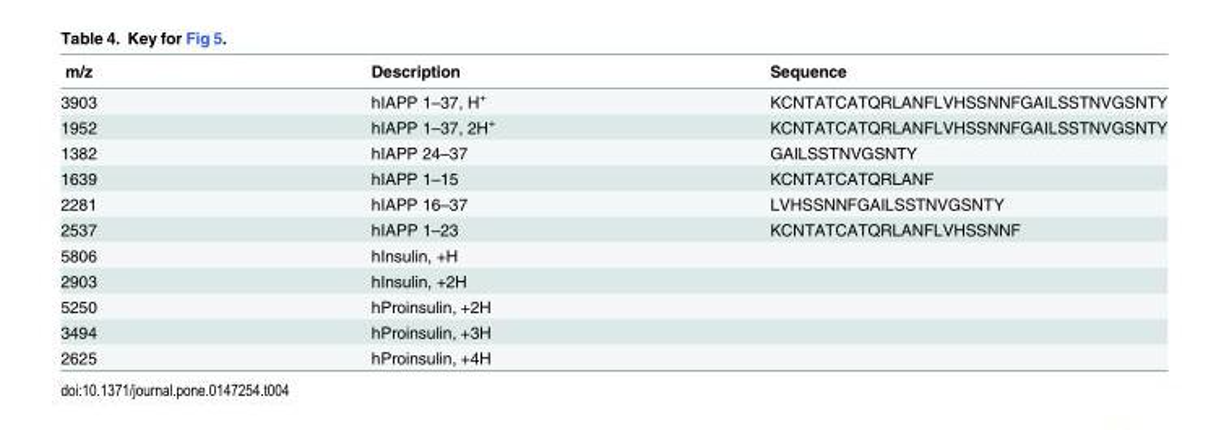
<table><thead><tr><td>m/z</td><td>Description</td><td>Sequence</td></tr></thead><tbody><tr><td>3903</td><td>hIAPP 1–37, H<sup>+</sup></td><td>KCNTATCATQRLANFLVHSSNNFGAILSSTNVGSNTY</td></tr><tr><td>1952</td><td>hIAPP 1–37, 2H<sup>+</sup></td><td>KCNTATCATQRLANFLVHSSNNFGAILSSTNVGSNTY</td></tr><tr><td>1382</td><td>hIAPP 24–37</td><td>GAILSSTNVGSNTY</td></tr><tr><td>1639</td><td>hIAPP 1–15</td><td>KCNTATCATQRLANF</td></tr><tr><td>2281</td><td>hIAPP 16–37</td><td>LVHSSNNFGAILSSTNVGSNTY</td></tr><tr><td>2537</td><td>hIAPP 1–23</td><td>KCNTATCATQRLANFLVHSSNNF</td></tr><tr><td>5806</td><td colspan="2">hInsulin, +H</td></tr><tr><td>2903</td><td colspan="2">hInsulin, +2H</td></tr><tr><td>5250</td><td colspan="2">hProinsulin, +2H</td></tr><tr><td>3494</td><td colspan="2">hProinsulin, +3H</td></tr><tr><td>2625</td><td colspan="2">hProinsulin, +4H</td></tr></tbody></table>